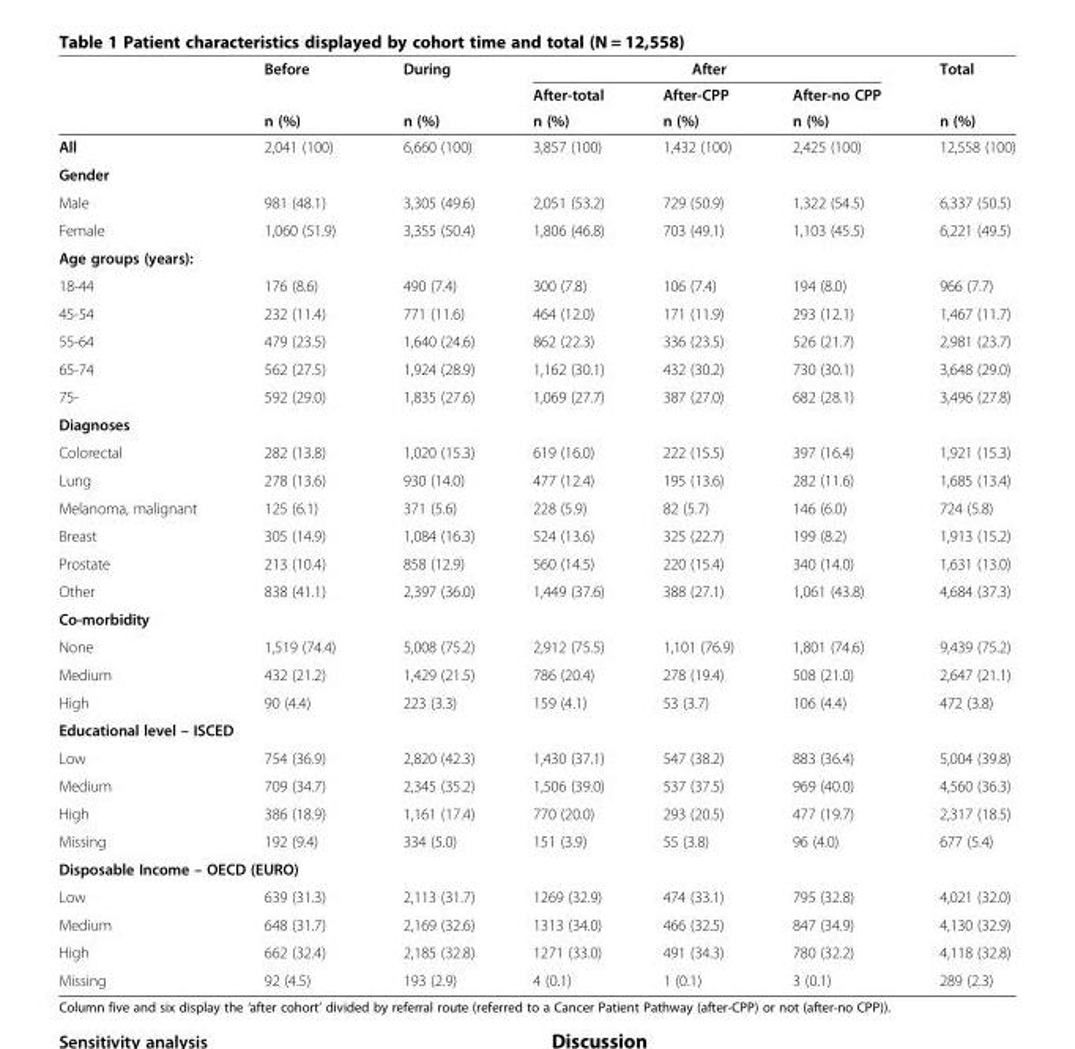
<table><thead><tr><td rowspan="3"></td><td rowspan="3">Before n (%)</td><td rowspan="3">During n (%)</td><td colspan="3">After</td><td rowspan="3">Total n (%)</td></tr><tr><td rowspan="2">After-total n (%)</td><td rowspan="2">After-CPP n (%)</td><td rowspan="2">After-no CPP n (%)</td></tr><tr></tr></thead><tbody><tr><td>All</td><td>2,041 (100)</td><td>6,660 (100)</td><td>3,857 (100)</td><td>1,432 (100)</td><td>2,425 (100)</td><td>12,558 (100)</td></tr><tr><td colspan="7">Gender</td></tr><tr><td>Male</td><td>981 (48.1)</td><td>3,305 (49.6)</td><td>2,051 (53.2)</td><td>729 (50.9)</td><td>1,322 (54.5)</td><td>6,337 (50.5)</td></tr><tr><td>Female</td><td>1,060 (51.9)</td><td>3,355 (50.4)</td><td>1,806 (46.8)</td><td>703 (49.1)</td><td>1,103 (45.5)</td><td>6,221 (49.5)</td></tr><tr><td colspan="7">Age groups (years):</td></tr><tr><td>18-44</td><td>176 (8.6)</td><td>490 (7.4)</td><td>300 (7.8)</td><td>106 (7.4)</td><td>194 (8.0)</td><td>966 (7.7)</td></tr><tr><td>45-54</td><td>232 (11.4)</td><td>771 (11.6)</td><td>464 (12.0)</td><td>171 (11.9)</td><td>293 (12.1)</td><td>1,467 (11.7)</td></tr><tr><td>55-64</td><td>479 (23.5)</td><td>1,640 (24.6)</td><td>862 (22.3)</td><td>336 (23.5)</td><td>526 (21.7)</td><td>2,981 (23.7)</td></tr><tr><td>65-74</td><td>562 (27.5)</td><td>1,924 (28.9)</td><td>1,162 (30.1)</td><td>432 (30.2)</td><td>730 (30.1)</td><td>3,648 (29.0)</td></tr><tr><td>75-</td><td>592 (29.0)</td><td>1,835 (27.6)</td><td>1,069 (27.7)</td><td>387 (27.0)</td><td>682 (28.1)</td><td>3,496 (27.8)</td></tr><tr><td colspan="7">Diagnoses</td></tr><tr><td>Colorectal</td><td>282 (13.8)</td><td>1,020 (15.3)</td><td>619 (16.0)</td><td>222 (15.5)</td><td>397 (16.4)</td><td>1,921 (15.3)</td></tr><tr><td>Lung</td><td>278 (13.6)</td><td>930 (14.0)</td><td>477 (12.4)</td><td>195 (13.6)</td><td>282 (11.6)</td><td>1,685 (13.4)</td></tr><tr><td>Melanoma, malignant</td><td>125 (6.1)</td><td>371 (5.6)</td><td>228 (5.9)</td><td>82 (5.7)</td><td>146 (6.0)</td><td>724 (5.8)</td></tr><tr><td>Breast</td><td>305 (14.9)</td><td>1,084 (16.3)</td><td>524 (13.6)</td><td>325 (22.7)</td><td>199 (8.2)</td><td>1,913 (15.2)</td></tr><tr><td>Prostate</td><td>213 (10.4)</td><td>858 (12.9)</td><td>560 (14.5)</td><td>220 (15.4)</td><td>340 (14.0)</td><td>1,631 (13.0)</td></tr><tr><td>Other</td><td>838 (41.1)</td><td>2,397 (36.0)</td><td>1,449 (37.6)</td><td>388 (27.1)</td><td>1,061 (43.8)</td><td>4,684 (37.3)</td></tr><tr><td colspan="7">Co-morbidity</td></tr><tr><td>None</td><td>1,519 (74.4)</td><td>5,008 (75.2)</td><td>2,912 (75.5)</td><td>1,101 (76.9)</td><td>1,801 (74.6)</td><td>9,439 (75.2)</td></tr><tr><td>Medium</td><td>432 (21.2)</td><td>1,429 (21.5)</td><td>786 (20.4)</td><td>278 (19.4)</td><td>508 (21.0)</td><td>2,647 (21.1)</td></tr><tr><td>High</td><td>90 (4.4)</td><td>223 (3.3)</td><td>159 (4.1)</td><td>53 (3.7)</td><td>106 (4.4)</td><td>472 (3.8)</td></tr><tr><td colspan="7">Educational level – ISCED</td></tr><tr><td>Low</td><td>754 (36.9)</td><td>2,820 (42.3)</td><td>1,430 (37.1)</td><td>547 (38.2)</td><td>883 (36.4)</td><td>5,004 (39.8)</td></tr><tr><td>Medium</td><td>709 (34.7)</td><td>2,345 (35.2)</td><td>1,506 (39.0)</td><td>537 (37.5)</td><td>969 (40.0)</td><td>4,560 (36.3)</td></tr><tr><td>High</td><td>386 (18.9)</td><td>1,161 (17.4)</td><td>770 (20.0)</td><td>293 (20.5)</td><td>477 (19.7)</td><td>2,317 (18.5)</td></tr><tr><td>Missing</td><td>192 (9.4)</td><td>334 (5.0)</td><td>151 (3.9)</td><td>55 (3.8)</td><td>96 (4.0)</td><td>677 (5.4)</td></tr><tr><td colspan="7">Disposable Income – OECD (EURO)</td></tr><tr><td>Low</td><td>639 (31.3)</td><td>2,113 (31.7)</td><td>1269 (32.9)</td><td>474 (33.1)</td><td>795 (32.8)</td><td>4,021 (32.0)</td></tr><tr><td>Medium</td><td>648 (31.7)</td><td>2,169 (32.6)</td><td>1313 (34.0)</td><td>466 (32.5)</td><td>847 (34.9)</td><td>4,130 (32.9)</td></tr><tr><td>High</td><td>662 (32.4)</td><td>2,185 (32.8)</td><td>1271 (33.0)</td><td>491 (34.3)</td><td>780 (32.2)</td><td>4,118 (32.8)</td></tr><tr><td>Missing</td><td>92 (4.5)</td><td>193 (2.9)</td><td>4 (0.1)</td><td>1 (0.1)</td><td>3 (0.1)</td><td>289 (2.3)</td></tr></tbody></table>